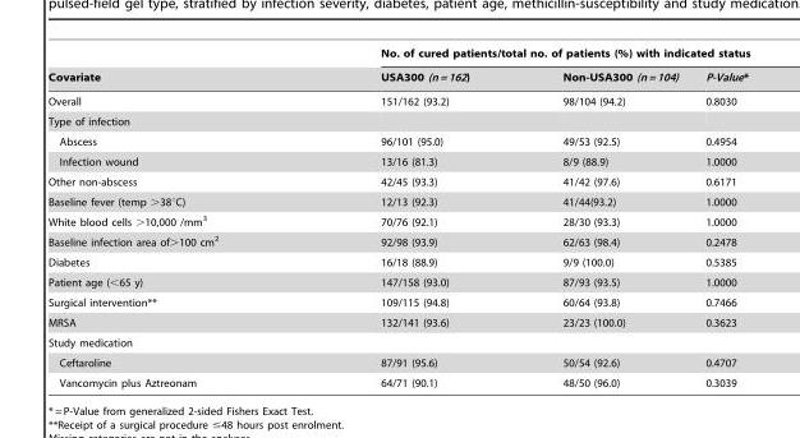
<table><thead><tr><td rowspan="2">Covariate</td><td colspan="3">No. of cured patients/total no. of patients (%) with indicated status</td></tr><tr><td>USA300 (n = 162)</td><td>Non-USA300 (n = 104)</td><td>P-Value*</td></tr></thead><tbody><tr><td>Overall</td><td>151/162 (93.2)</td><td>98/104 (94.2)</td><td>0.8030</td></tr><tr><td colspan="4">Type of infection</td></tr><tr><td>Abscess</td><td>96/101 (95.0)</td><td>49/53 (92.5)</td><td>0.4954</td></tr><tr><td>Infection wound</td><td>13/16 (81.3)</td><td>8/9 (88.9)</td><td>1.0000</td></tr><tr><td>Other non-abscess</td><td>42/45 (93.3)</td><td>41/42 (97.6)</td><td>0.6171</td></tr><tr><td>Baseline fever (temp &gt;38°C)</td><td>12/13 (92.3)</td><td>41/44(93.2)</td><td>1.0000</td></tr><tr><td>White blood cells &gt;10,000 /mm<sup>3</sup></td><td>70/76 (92.1)</td><td>28/30 (93.3)</td><td>1.0000</td></tr><tr><td>Baseline infection area of&gt;100 cm<sup>2</sup></td><td>92/98 (93.9)</td><td>62/63 (98.4)</td><td>0.2478</td></tr><tr><td>Diabetes</td><td>16/18 (88.9)</td><td>9/9 (100.0)</td><td>0.5385</td></tr><tr><td>Patient age (&lt;65 y)</td><td>147/158 (93.0)</td><td>87/93 (93.5)</td><td>1.0000</td></tr><tr><td>Surgical intervention**</td><td>109/115 (94.8)</td><td>60/64 (93.8)</td><td>0.7466</td></tr><tr><td>MRSA</td><td>132/141 (93.6)</td><td>23/23 (100.0)</td><td>0.3623</td></tr><tr><td colspan="4">Study medication</td></tr><tr><td>Ceftaroline</td><td>87/91 (95.6)</td><td>50/54 (92.6)</td><td>0.4707</td></tr><tr><td>Vancomycin plus Aztreonam</td><td>64/71 (90.1)</td><td>48/50 (96.0)</td><td>0.3039</td></tr></tbody></table>